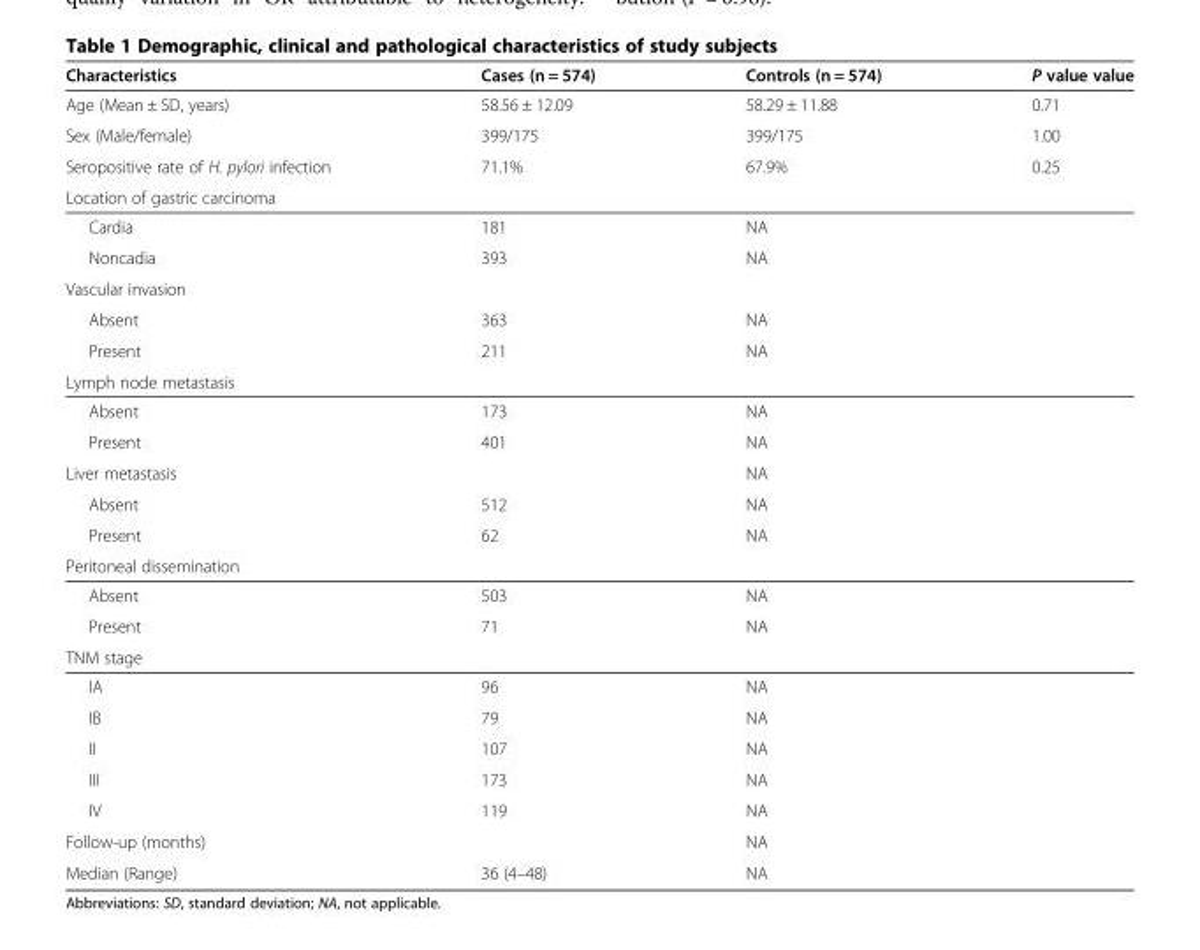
<table><thead><tr><td>Characteristics</td><td>Cases (n = 574)</td><td>Controls (n = 574)</td><td>P value value</td></tr></thead><tbody><tr><td>Age (Mean ± SD, years)</td><td>58.56 ± 12.09</td><td>58.29 ± 11.88</td><td>0.71</td></tr><tr><td>Sex (Male/female)</td><td>399/175</td><td>399/175</td><td>1.00</td></tr><tr><td>Seropositive rate of H. pylori infection</td><td>71.1%</td><td>67.9%</td><td>0.25</td></tr><tr><td colspan="4">Location of gastric carcinoma</td></tr><tr><td>Cardia</td><td>181</td><td>NA</td><td></td></tr><tr><td>Noncadia</td><td>393</td><td>NA</td><td></td></tr><tr><td colspan="4">Vascular invasion</td></tr><tr><td>Absent</td><td>363</td><td>NA</td><td></td></tr><tr><td>Present</td><td>211</td><td>NA</td><td></td></tr><tr><td colspan="4">Lymph node metastasis</td></tr><tr><td>Absent</td><td>173</td><td>NA</td><td></td></tr><tr><td>Present</td><td>401</td><td>NA</td><td></td></tr><tr><td>Liver metastasis</td><td></td><td>NA</td><td></td></tr><tr><td>Absent</td><td>512</td><td>NA</td><td></td></tr><tr><td>Present</td><td>62</td><td>NA</td><td></td></tr><tr><td colspan="4">Peritoneal dissemination</td></tr><tr><td>Absent</td><td>503</td><td>NA</td><td></td></tr><tr><td>Present</td><td>71</td><td>NA</td><td></td></tr><tr><td colspan="4">TNM stage</td></tr><tr><td>IA</td><td>96</td><td>NA</td><td></td></tr><tr><td>IB</td><td>79</td><td>NA</td><td></td></tr><tr><td>II</td><td>107</td><td>NA</td><td></td></tr><tr><td>III</td><td>173</td><td>NA</td><td></td></tr><tr><td>IV</td><td>119</td><td>NA</td><td></td></tr><tr><td>Follow-up (months)</td><td></td><td>NA</td><td></td></tr><tr><td>Median (Range)</td><td>36 (4–48)</td><td>NA</td><td></td></tr></tbody></table>